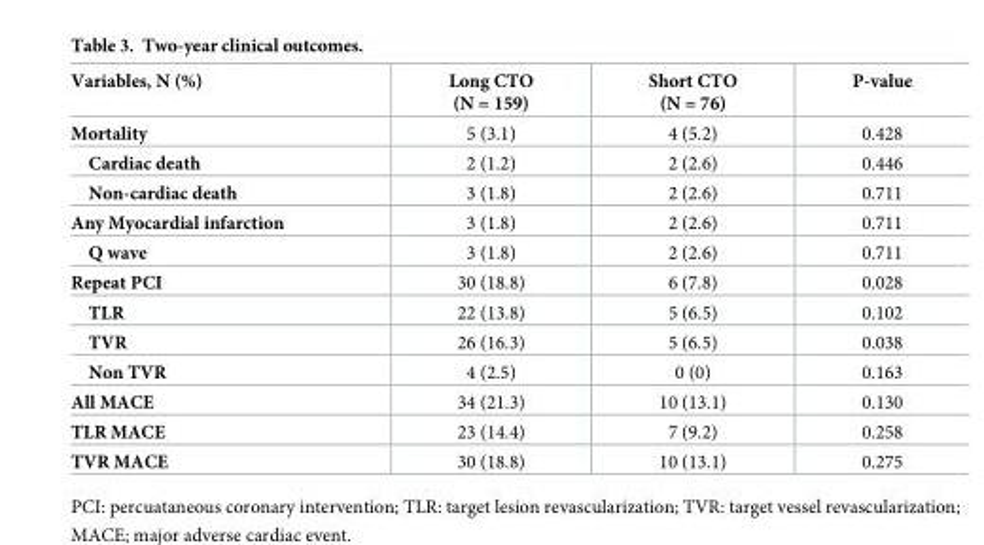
<table><thead><tr><td>Variables, N (%)</td><td>Long CTO (N = 159)</td><td>Short CTO (N = 76)</td><td>P-value</td></tr></thead><tbody><tr><td>Mortality</td><td>5 (3.1)</td><td>4 (5.2)</td><td>0.428</td></tr><tr><td>Cardiac death</td><td>2 (1.2)</td><td>2 (2.6)</td><td>0.446</td></tr><tr><td>Non-cardiac death</td><td>3 (1.8)</td><td>2 (2.6)</td><td>0.711</td></tr><tr><td>Any Myocardial infarction</td><td>3 (1.8)</td><td>2 (2.6)</td><td>0.711</td></tr><tr><td>Q wave</td><td>3 (1.8)</td><td>2 (2.6)</td><td>0.711</td></tr><tr><td>Repeat PCI</td><td>30 (18.8)</td><td>6 (7.8)</td><td>0.028</td></tr><tr><td>TLR</td><td>22 (13.8)</td><td>5 (6.5)</td><td>0.102</td></tr><tr><td>TVR</td><td>26 (16.3)</td><td>5 (6.5)</td><td>0.038</td></tr><tr><td>Non TVR</td><td>4 (2.5)</td><td>0 (0)</td><td>0.163</td></tr><tr><td>All MACE</td><td>34 (21.3)</td><td>10 (13.1)</td><td>0.130</td></tr><tr><td>TLR MACE</td><td>23 (14.4)</td><td>7 (9.2)</td><td>0.258</td></tr><tr><td>TVR MACE</td><td>30 (18.8)</td><td>10 (13.1)</td><td>0.275</td></tr></tbody></table>